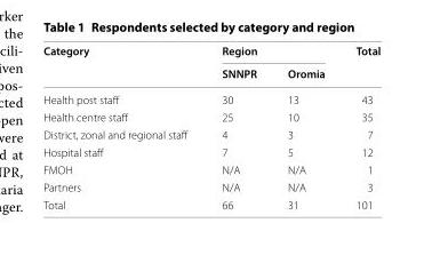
<table><thead><tr><td rowspan="2">Category</td><td colspan="2">Region</td><td rowspan="2">Total</td></tr><tr><td>SNNPR</td><td>Oromia</td></tr></thead><tbody><tr><td>Health post staff</td><td>30</td><td>13</td><td>43</td></tr><tr><td>Health centre staff</td><td>25</td><td>10</td><td>35</td></tr><tr><td>District, zonal and regional staff</td><td>4</td><td>3</td><td>7</td></tr><tr><td>Hospital staff</td><td>7</td><td>5</td><td>12</td></tr><tr><td>FMOH</td><td>N/A</td><td>N/A</td><td>1</td></tr><tr><td>Partners</td><td>N/A</td><td>N/A</td><td>3</td></tr><tr><td>Total</td><td>66</td><td>31</td><td>101</td></tr></tbody></table>